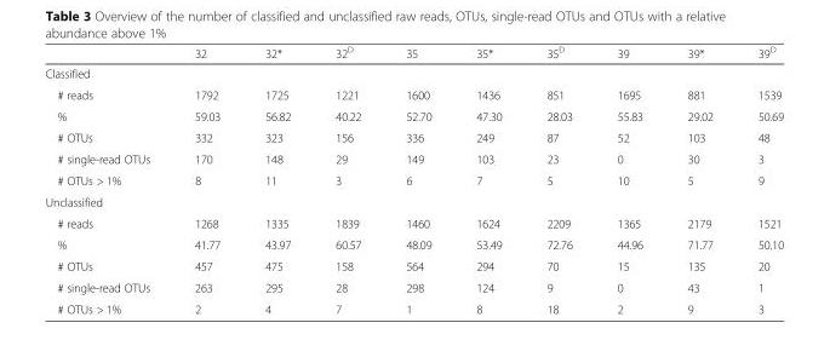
<table><thead><tr><td></td><td>32</td><td>32*</td><td>32<sup>D</sup></td><td>35</td><td>35*</td><td>35<sup>D</sup></td><td>39</td><td>39*</td><td>39<sup>D</sup></td></tr></thead><tbody><tr><td colspan="10">Classified</td></tr><tr><td># reads</td><td>1792</td><td>1725</td><td>1221</td><td>1600</td><td>1436</td><td>851</td><td>1695</td><td>881</td><td>1539</td></tr><tr><td>%</td><td>59.03</td><td>56.82</td><td>40.22</td><td>52.70</td><td>47.30</td><td>28.03</td><td>55.83</td><td>29.02</td><td>50.69</td></tr><tr><td># OTUs</td><td>332</td><td>323</td><td>156</td><td>336</td><td>249</td><td>87</td><td>52</td><td>103</td><td>48</td></tr><tr><td># single-read OTUs</td><td>170</td><td>148</td><td>29</td><td>149</td><td>103</td><td>23</td><td>0</td><td>30</td><td>3</td></tr><tr><td># OTUs &gt; 1%</td><td>8</td><td>11</td><td>3</td><td>6</td><td>7</td><td>5</td><td>10</td><td>5</td><td>9</td></tr><tr><td colspan="10">Unclassified</td></tr><tr><td># reads</td><td>1268</td><td>1335</td><td>1839</td><td>1460</td><td>1624</td><td>2209</td><td>1365</td><td>2179</td><td>1521</td></tr><tr><td>%</td><td>41.77</td><td>43.97</td><td>60.57</td><td>48.09</td><td>53.49</td><td>72.76</td><td>44.96</td><td>71.77</td><td>50.10</td></tr><tr><td># OTUs</td><td>457</td><td>475</td><td>158</td><td>564</td><td>294</td><td>70</td><td>15</td><td>135</td><td>20</td></tr><tr><td># single-read OTUs</td><td>263</td><td>295</td><td>28</td><td>298</td><td>124</td><td>9</td><td>0</td><td>43</td><td>1</td></tr><tr><td># OTUs &gt; 1%</td><td>2</td><td>4</td><td>7</td><td>1</td><td>8</td><td>18</td><td>2</td><td>9</td><td>3</td></tr></tbody></table>